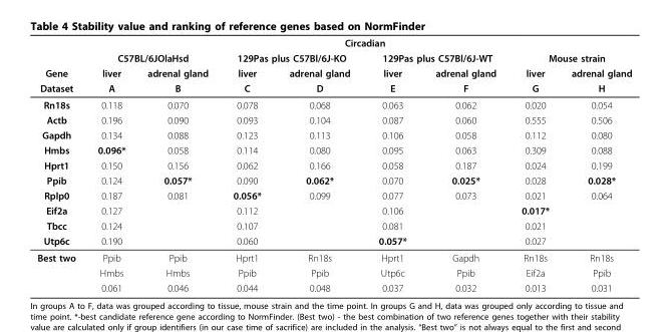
<table><thead><tr><td rowspan="4">Gene Dataset</td><td colspan="8">Circadian</td></tr><tr><td colspan="2">C57BL/6JOlaHsd</td><td colspan="2">129Pas plus C57Bl/6J-KO</td><td colspan="2">129Pas plus C57Bl/6J-WT</td><td colspan="2">Mouse strain</td></tr><tr><td rowspan="2">liver A</td><td rowspan="2">adrenal gland B</td><td rowspan="2">liver C</td><td rowspan="2">adrenal gland D</td><td rowspan="2">liver E</td><td rowspan="2">adrenal gland F</td><td rowspan="2">liver G</td><td rowspan="2">adrenal gland H</td></tr><tr></tr></thead><tbody><tr><td>Rn18s</td><td>0.118</td><td>0.070</td><td>0.078</td><td>0.068</td><td>0.063</td><td>0.062</td><td>0.020</td><td>0.054</td></tr><tr><td>Actb</td><td>0.196</td><td>0.090</td><td>0.093</td><td>0.104</td><td>0.087</td><td>0.060</td><td>0.555</td><td>0.506</td></tr><tr><td>Gapdh</td><td>0.134</td><td>0.088</td><td>0.123</td><td>0.113</td><td>0.106</td><td>0.058</td><td>0.112</td><td>0.080</td></tr><tr><td>Hmbs</td><td>0.096*</td><td>0.058</td><td>0.114</td><td>0.080</td><td>0.095</td><td>0.063</td><td>0.309</td><td>0.088</td></tr><tr><td>Hprt1</td><td>0.150</td><td>0.156</td><td>0.062</td><td>0.166</td><td>0.058</td><td>0.187</td><td>0.024</td><td>0.199</td></tr><tr><td>Ppib</td><td>0.124</td><td>0.057*</td><td>0.090</td><td>0.062*</td><td>0.070</td><td>0.025*</td><td>0.028</td><td>0.028*</td></tr><tr><td>Rplp0</td><td>0.187</td><td>0.081</td><td>0.056*</td><td>0.099</td><td>0.077</td><td>0.073</td><td>0.021</td><td>0.064</td></tr><tr><td>Eif2a</td><td>0.127</td><td></td><td>0.112</td><td></td><td>0.106</td><td></td><td>0.017*</td><td></td></tr><tr><td>Tbcc</td><td>0.124</td><td></td><td>0.107</td><td></td><td>0.081</td><td></td><td>0.021</td><td></td></tr><tr><td>Utp6c</td><td>0.190</td><td></td><td>0.060</td><td></td><td>0.057*</td><td></td><td>0.027</td><td></td></tr><tr><td rowspan="3">Best two</td><td>Ppib</td><td>Ppib</td><td>Hprt1</td><td>Rn18s</td><td>Hprt1</td><td>Gapdh</td><td>Rn18s</td><td>Rn18s</td></tr><tr><td>Hmbs</td><td>Hmbs</td><td>Ppib</td><td>Ppib</td><td>Utp6c</td><td>Ppib</td><td>Eif2a</td><td>Ppib</td></tr><tr><td>0.061</td><td>0.046</td><td>0.044</td><td>0.048</td><td>0.037</td><td>0.032</td><td>0.013</td><td>0.031</td></tr></tbody></table>